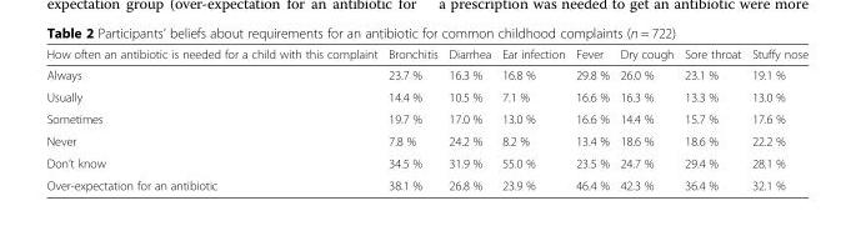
<table><thead><tr><td>How often an antibiotic is needed for a child with this complaint</td><td>Bronchitis</td><td>Diarrhea</td><td>Ear infection</td><td>Fever</td><td>Dry cough</td><td>Sore throat</td><td>Stuffy nose</td></tr></thead><tbody><tr><td>Always</td><td>23.7 %</td><td>16.3 %</td><td>16.8 %</td><td>29.8 %</td><td>26.0 %</td><td>23.1 %</td><td>19.1 %</td></tr><tr><td>Usually</td><td>14.4 %</td><td>10.5 %</td><td>7.1 %</td><td>16.6 %</td><td>16.3 %</td><td>13.3 %</td><td>13.0 %</td></tr><tr><td>Sometimes</td><td>19.7 %</td><td>17.0 %</td><td>13.0 %</td><td>16.6 %</td><td>14.4 %</td><td>15.7 %</td><td>17.6 %</td></tr><tr><td>Never</td><td>7.8 %</td><td>24.2 %</td><td>8.2 %</td><td>13.4 %</td><td>18.6 %</td><td>18.6 %</td><td>22.2 %</td></tr><tr><td>Don’t know</td><td>34.5 %</td><td>31.9 %</td><td>55.0 %</td><td>23.5 %</td><td>24.7 %</td><td>29.4 %</td><td>28.1 %</td></tr><tr><td>Over-expectation for an antibiotic</td><td>38.1 %</td><td>26.8 %</td><td>23.9 %</td><td>46.4 %</td><td>42.3 %</td><td>36.4 %</td><td>32.1 %</td></tr></tbody></table>